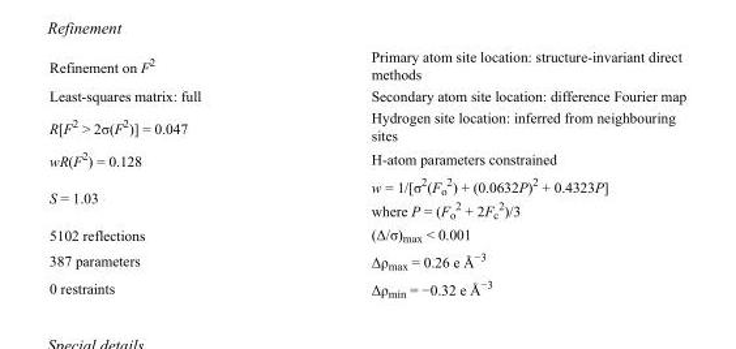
<table><tbody><tr><td>Refinement on F<sup>2</sup></td><td>Primary atom site location: structure-invariant direct methods</td></tr><tr><td>Least-squares matrix: full</td><td>Secondary atom site location: difference Fourier map</td></tr><tr><td>R[F<sup>2</sup> &gt; 2σ(F<sup>2</sup>)] = 0.047</td><td>Hydrogen site location: inferred from neighbouring sites</td></tr><tr><td>wR(F<sup>2</sup>) = 0.128</td><td>H-atom parameters constrained</td></tr><tr><td>S = 1.03</td><td>w = 1/[σ<sup>2</sup>(F<sub>o</sub> <sup>2</sup>) + (0.0632P)<sup>2</sup> + 0.4323P] where P = (F<sub>o</sub> <sup>2</sup> + 2F<sub>c</sub> <sup>2</sup>)/3</td></tr><tr><td>5102 reflections</td><td>(Δ/σ)<sub>max</sub> &lt; 0.001</td></tr><tr><td>387 parameters</td><td>Δρ<sub>max</sub> = 0.26 e Å<sup>−3</sup></td></tr><tr><td>0 restraints</td><td>Δρ<sub>min</sub> = −0.32 e Å<sup>−3</sup></td></tr></tbody></table>